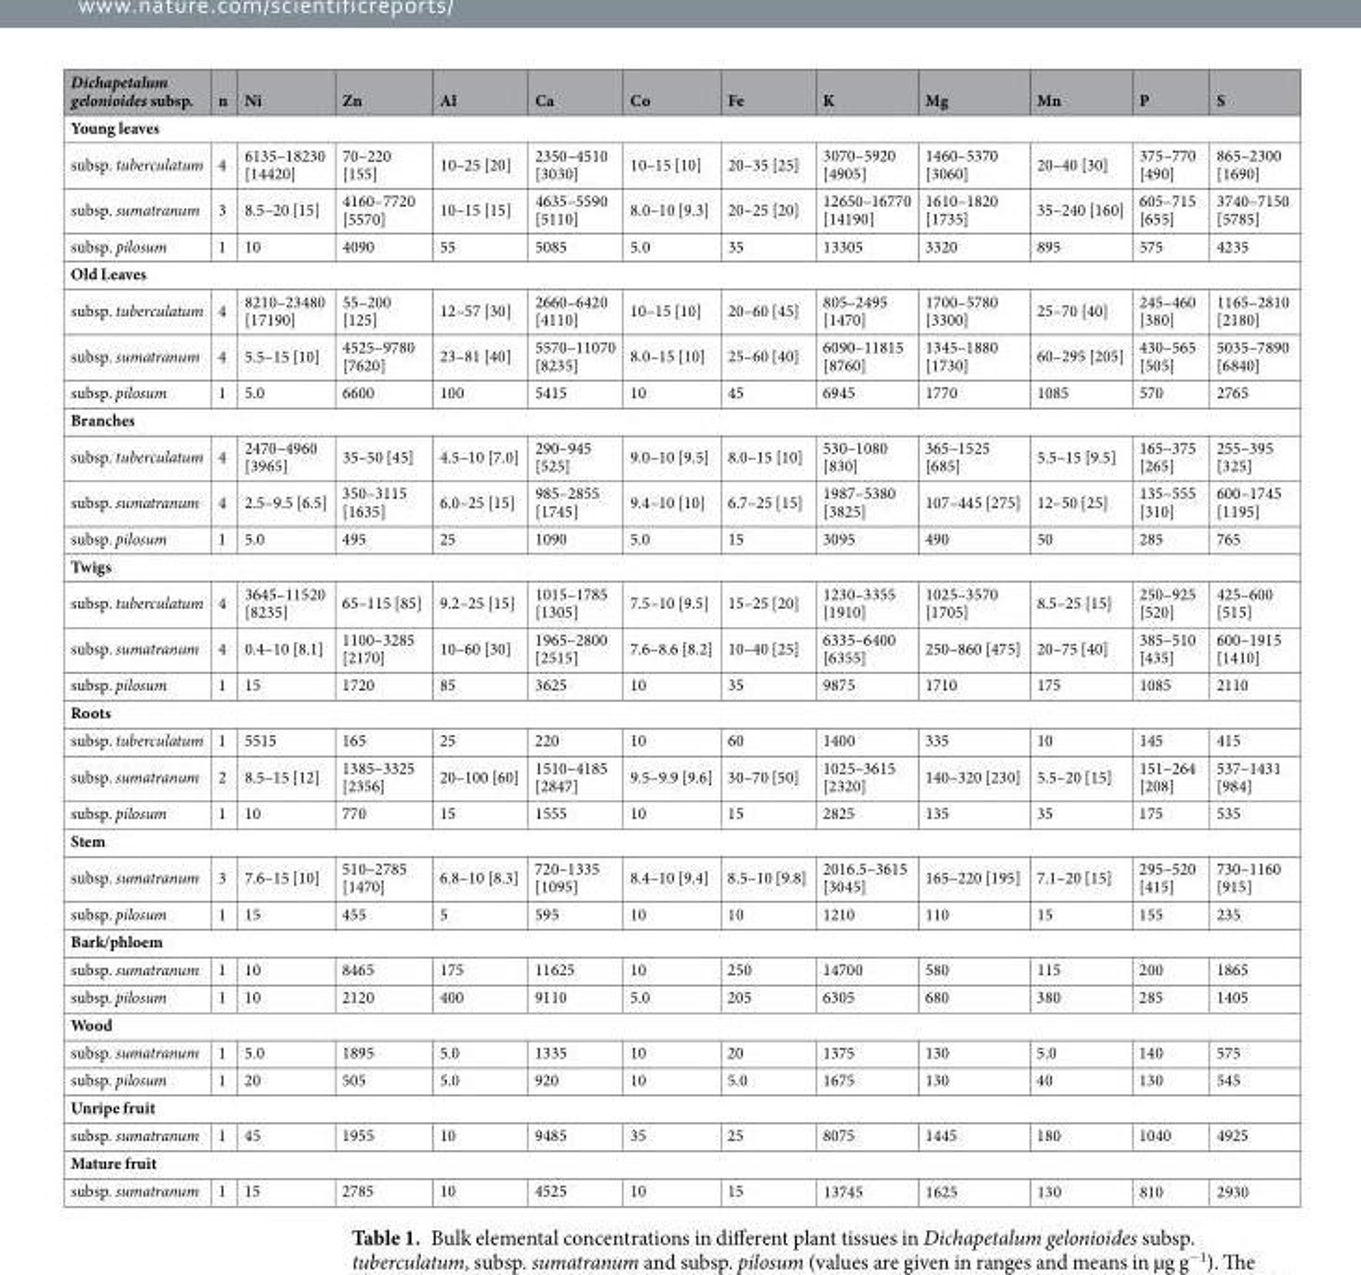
<table><thead><tr><td>Dichapetalum gelonioides subsp.</td><td>n</td><td>Ni</td><td>Zn</td><td>Al</td><td>Ca</td><td>Co</td><td>Fe</td><td>K</td><td>Mg</td><td>Mn</td><td>P</td><td>S</td></tr></thead><tbody><tr><td colspan="13">Young leaves</td></tr><tr><td>subsp. tuberculatum</td><td>4</td><td>6135–18230 [14420]</td><td>70–220 [155]</td><td>10–25 [20]</td><td>2350–4510 [3030]</td><td>10–15 [10]</td><td>20–35 [25]</td><td>3070–5920 [4905]</td><td>1460–5370 [3060]</td><td>20–40 [30]</td><td>375–770 [490]</td><td>865–2300 [1690]</td></tr><tr><td>subsp. sumatranum</td><td>3</td><td>8.5–20 [15]</td><td>4160–7720 [5570]</td><td>10–15 [15]</td><td>4635–5590 [5110]</td><td>8.0–10 [9.3]</td><td>20–25 [20]</td><td>12650–16770 [14190]</td><td>1610–1820 [1735]</td><td>35–240 [160]</td><td>605–715 [655]</td><td>3740–7150 [5785]</td></tr><tr><td>subsp. pilosum</td><td>1</td><td>10</td><td>4090</td><td>55</td><td>5085</td><td>5.0</td><td>35</td><td>13305</td><td>3320</td><td>895</td><td>575</td><td>4235</td></tr><tr><td colspan="13">Old Leaves</td></tr><tr><td>subsp. tuberculatum</td><td>4</td><td>8210–23480 [17190]</td><td>55–200 [125]</td><td>12–57 [30]</td><td>2660–6420 [4110]</td><td>10–15 [10]</td><td>20–60 [45]</td><td>805–2495 [1470]</td><td>1700–5780 [3300]</td><td>25–70 [40]</td><td>245–460 [380]</td><td>1165–2810 [2180]</td></tr><tr><td>subsp. sumatranum</td><td>4</td><td>5.5–15 [10]</td><td>4525–9780 [7620]</td><td>23–81 [40]</td><td>5570–11070 [8235]</td><td>8.0–15 [10]</td><td>25–60 [40]</td><td>6090–11815 [8760]</td><td>1345–1880 [1730]</td><td>60–295 [205]</td><td>430–565 [505]</td><td>5035–7890 [6840]</td></tr><tr><td>subsp. pilosum</td><td>1</td><td>5.0</td><td>6600</td><td>100</td><td>5415</td><td>10</td><td>45</td><td>6945</td><td>1770</td><td>1085</td><td>570</td><td>2765</td></tr><tr><td colspan="13">Branches</td></tr><tr><td>subsp. tuberculatum</td><td>4</td><td>2470–4960 [3965]</td><td>35–50 [45]</td><td>4.5–10 [7.0]</td><td>290–945 [525]</td><td>9.0–10 [9.5]</td><td>8.0–15 [10]</td><td>530–1080 [830]</td><td>365–1525 [685]</td><td>5.5–15 [9.5]</td><td>165–375 [265]</td><td>255–395 [325]</td></tr><tr><td>subsp. sumatranum</td><td>4</td><td>2.5–9.5 [6.5]</td><td>350–3115 [1635]</td><td>6.0–25 [15]</td><td>985–2855 [1745]</td><td>9.4–10 [10]</td><td>6.7–25 [15]</td><td>1987–5380 [3825]</td><td>107–445 [275]</td><td>12–50 [25]</td><td>135–555 [310]</td><td>600–1745 [1195]</td></tr><tr><td>subsp. pilosum</td><td>1</td><td>5.0</td><td>495</td><td>25</td><td>1090</td><td>5.0</td><td>15</td><td>3095</td><td>490</td><td>50</td><td>285</td><td>765</td></tr><tr><td colspan="13">Twigs</td></tr><tr><td>subsp. tuberculatum</td><td>4</td><td>3645–11520 [8235]</td><td>65–115 [85]</td><td>9.2–25 [15]</td><td>1015–1785 [1305]</td><td>7.5–10 [9.5]</td><td>15–25 [20]</td><td>1230–3355 [1910]</td><td>1025–3570 [1705]</td><td>8.5–25 [15]</td><td>250–925 [520]</td><td>425–600 [515]</td></tr><tr><td>subsp. sumatranum</td><td>4</td><td>0.4–10 [8.1]</td><td>1100–3285 [2170]</td><td>10–60 [30]</td><td>1965–2800 [2515]</td><td>7.6–8.6 [8.2]</td><td>10–40 [25]</td><td>6335–6400 [6355]</td><td>250–860 [475]</td><td>20–75 [40]</td><td>385–510 [435]</td><td>600–1915 [1410]</td></tr><tr><td>subsp. pilosum</td><td>1</td><td>15</td><td>1720</td><td>85</td><td>3625</td><td>10</td><td>35</td><td>9875</td><td>1710</td><td>175</td><td>1085</td><td>2110</td></tr><tr><td colspan="13">Roots</td></tr><tr><td>subsp. tuberculatum</td><td>1</td><td>5515</td><td>165</td><td>25</td><td>220</td><td>10</td><td>60</td><td>1400</td><td>335</td><td>10</td><td>145</td><td>415</td></tr><tr><td>subsp. sumatranum</td><td>2</td><td>8.5–15 [12]</td><td>1385–3325 [2356]</td><td>20–100 [60]</td><td>1510–4185 [2847]</td><td>9.5–9.9 [9.6]</td><td>30–70 [50]</td><td>1025–3615 [2320]</td><td>140–320 [230]</td><td>5.5–20 [15]</td><td>151–264 [208]</td><td>537–1431 [984]</td></tr><tr><td>subsp. pilosum</td><td>1</td><td>10</td><td>770</td><td>15</td><td>1555</td><td>10</td><td>15</td><td>2825</td><td>135</td><td>35</td><td>175</td><td>535</td></tr><tr><td colspan="13">Stem</td></tr><tr><td>subsp. sumatranum</td><td>3</td><td>7.6–15 [10]</td><td>510–2785 [1470]</td><td>6.8–10 [8.3]</td><td>720–1335 [1095]</td><td>8.4–10 [9.4]</td><td>8.5–10 [9.8]</td><td>2016.5–3615 [3045]</td><td>165–220 [195]</td><td>7.1–20 [15]</td><td>295–520 [415]</td><td>730–1160 [915]</td></tr><tr><td>subsp. pilosum</td><td>1</td><td>15</td><td>455</td><td>5</td><td>595</td><td>10</td><td>10</td><td>1210</td><td>110</td><td>15</td><td>155</td><td>235</td></tr><tr><td colspan="13">Bark/phloem</td></tr><tr><td>subsp. sumatranum</td><td>1</td><td>10</td><td>8465</td><td>175</td><td>11625</td><td>10</td><td>250</td><td>14700</td><td>580</td><td>115</td><td>200</td><td>1865</td></tr><tr><td>subsp. pilosum</td><td>1</td><td>10</td><td>2120</td><td>400</td><td>9110</td><td>5.0</td><td>205</td><td>6305</td><td>680</td><td>380</td><td>285</td><td>1405</td></tr><tr><td colspan="13">Wood</td></tr><tr><td>subsp. sumatranum</td><td>1</td><td>5.0</td><td>1895</td><td>5.0</td><td>1335</td><td>10</td><td>20</td><td>1375</td><td>130</td><td>5.0</td><td>140</td><td>575</td></tr><tr><td>subsp. pilosum</td><td>1</td><td>20</td><td>505</td><td>5.0</td><td>920</td><td>10</td><td>5.0</td><td>1675</td><td>130</td><td>40</td><td>130</td><td>545</td></tr><tr><td colspan="13">Unripe fruit</td></tr><tr><td>subsp. sumatranum</td><td>1</td><td>45</td><td>1955</td><td>10</td><td>9485</td><td>35</td><td>25</td><td>8075</td><td>1445</td><td>180</td><td>1040</td><td>4925</td></tr><tr><td colspan="13">Mature fruit</td></tr><tr><td>subsp. sumatranum</td><td>1</td><td>15</td><td>2785</td><td>10</td><td>4525</td><td>10</td><td>15</td><td>13745</td><td>1625</td><td>130</td><td>810</td><td>2930</td></tr></tbody></table>